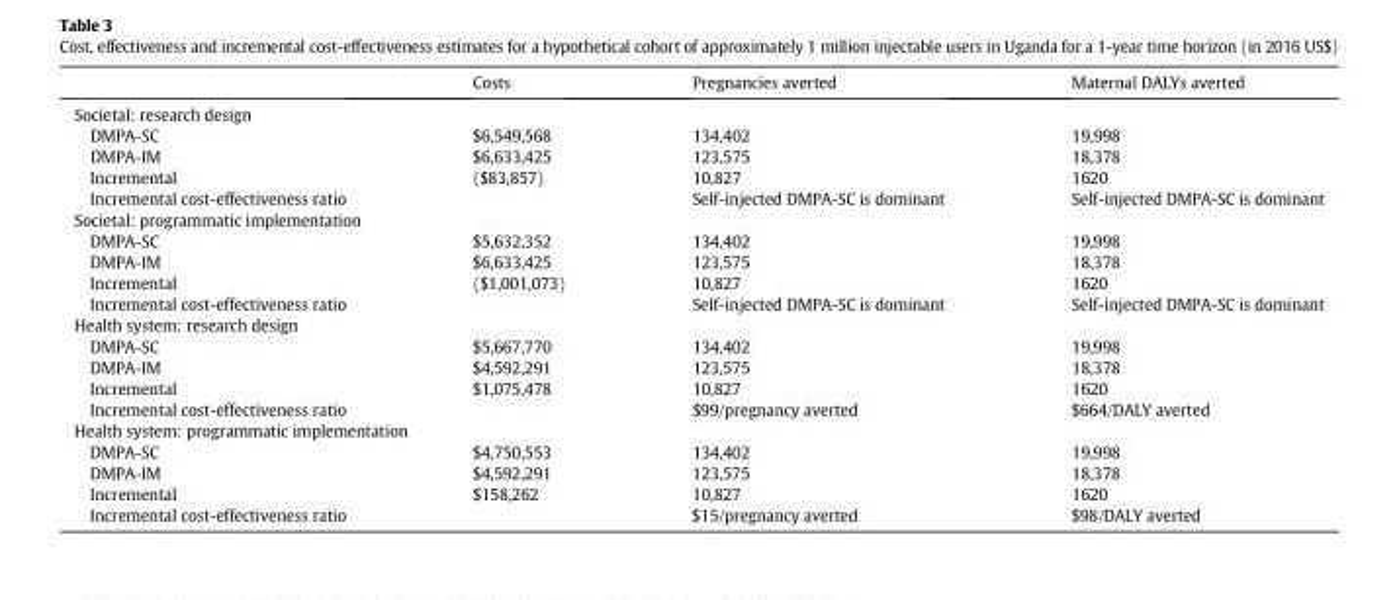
<table><thead><tr><td></td><td>Costs</td><td>Pregnancies averted</td><td>Maternal DALYs averted</td></tr></thead><tbody><tr><td colspan="4">Societal: research design</td></tr><tr><td>DMPA-SC</td><td>$6,549,568</td><td>134,402</td><td>19,998</td></tr><tr><td>DMPA-IM</td><td>$6,633,425</td><td>123,575</td><td>18,378</td></tr><tr><td>Incremental</td><td>($83,857)</td><td>10,827</td><td>1620</td></tr><tr><td>Incremental cost-effectiveness ratio</td><td></td><td>Self-injected DMPA-SC is dominant</td><td>Self-injected DMPA-SC is dominant</td></tr><tr><td colspan="4">Societal: programmatic implementation</td></tr><tr><td>DMPA-SC</td><td>$5,632,352</td><td>134,402</td><td>19,998</td></tr><tr><td>DMPA-IM</td><td>$6,633,425</td><td>123,575</td><td>18,378</td></tr><tr><td>Incremental</td><td>($1,001,073)</td><td>10,827</td><td>1620</td></tr><tr><td>Incremental cost-effectiveness ratio</td><td></td><td>Self-injected DMPA-SC is dominant</td><td>Self-injected DMPA-SC is dominant</td></tr><tr><td colspan="4">Health system: research design</td></tr><tr><td>DMPA-SC</td><td>$5,667,770</td><td>134,402</td><td>19,998</td></tr><tr><td>DMPA-IM</td><td>$4,592,291</td><td>123,575</td><td>18,378</td></tr><tr><td>Incremental</td><td>$1,075,478</td><td>10,827</td><td>1620</td></tr><tr><td>Incremental cost-effectiveness ratio</td><td></td><td>$99/pregnancy averted</td><td>$664/DALY averted</td></tr><tr><td colspan="4">Health system: programmatic implementation</td></tr><tr><td>DMPA-SC</td><td>$4,750,553</td><td>134,402</td><td>19,998</td></tr><tr><td>DMPA-IM</td><td>$4,592,291</td><td>123,575</td><td>18,378</td></tr><tr><td>Incremental</td><td>$158,262</td><td>10,827</td><td>1620</td></tr><tr><td>Incremental cost-effectiveness ratio</td><td></td><td>$15/pregnancy averted</td><td>$98/DALY averted</td></tr></tbody></table>